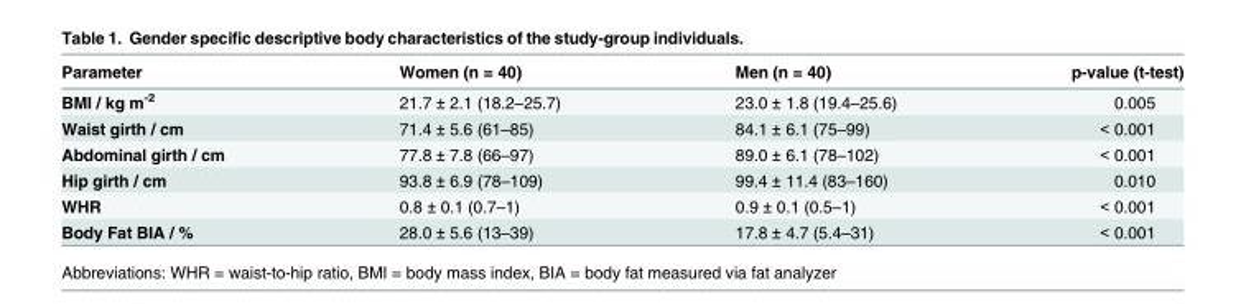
<table><thead><tr><td>Parameter</td><td>Women (n = 40)</td><td>Men (n = 40)</td><td>p-value (t-test)</td></tr></thead><tbody><tr><td>BMI / kg m<sup>-2</sup></td><td>21.7 ± 2.1 (18.2–25.7)</td><td>23.0 ± 1.8 (19.4–25.6)</td><td>0.005</td></tr><tr><td>Waist girth / cm</td><td>71.4 ± 5.6 (61–85)</td><td>84.1 ± 6.1 (75–99)</td><td>&lt; 0.001</td></tr><tr><td>Abdominal girth / cm</td><td>77.8 ± 7.8 (66–97)</td><td>89.0 ± 6.1 (78–102)</td><td>&lt; 0.001</td></tr><tr><td>Hip girth / cm</td><td>93.8 ± 6.9 (78–109)</td><td>99.4 ± 11.4 (83–160)</td><td>0.010</td></tr><tr><td>WHR</td><td>0.8 ± 0.1 (0.7–1)</td><td>0.9 ± 0.1 (0.5–1)</td><td>&lt; 0.001</td></tr><tr><td>Body Fat BIA / %</td><td>28.0 ± 5.6 (13–39)</td><td>17.8 ± 4.7 (5.4–31)</td><td>&lt; 0.001</td></tr></tbody></table>